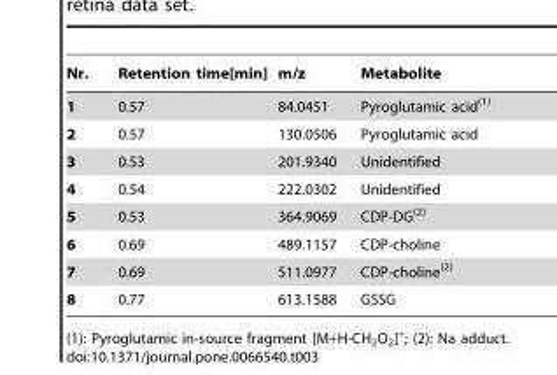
<table><thead><tr><td>Nr.</td><td>Retention time[min]</td><td>m/z</td><td>Metabolite</td></tr></thead><tbody><tr><td>1</td><td>0.57</td><td>84.0451</td><td>Pyroglutamic acid<sup>(1)</sup></td></tr><tr><td>2</td><td>0.57</td><td>130.0506</td><td>Pyroglutamic acid</td></tr><tr><td>3</td><td>0.53</td><td>201.9340</td><td>Unidentified</td></tr><tr><td>4</td><td>0.54</td><td>222.0302</td><td>Unidentified</td></tr><tr><td>5</td><td>0.53</td><td>364.9069</td><td>CDP-DG<sup>(2)</sup></td></tr><tr><td>6</td><td>0.69</td><td>489.1157</td><td>CDP-choline</td></tr><tr><td>7</td><td>0.69</td><td>511.0977</td><td>CDP-choline<sup>(2)</sup></td></tr><tr><td>8</td><td>0.77</td><td>613.1588</td><td>GSSG</td></tr></tbody></table>